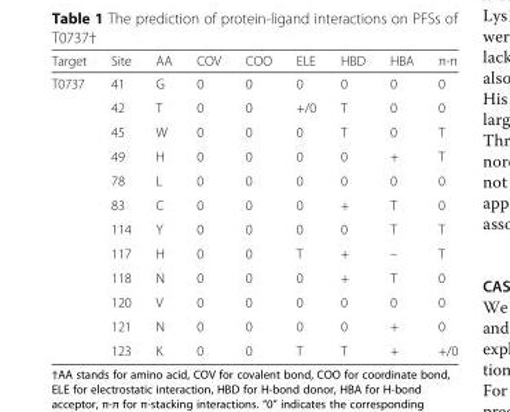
<table><thead><tr><td>Target</td><td>Site</td><td>AA</td><td>COV</td><td>COO</td><td>ELE</td><td>HBD</td><td>HBA</td><td>π-π</td></tr></thead><tbody><tr><td rowspan="12">T0737</td><td>41</td><td>G</td><td>0</td><td>0</td><td>0</td><td>0</td><td>0</td><td>0</td></tr><tr><td>42</td><td>T</td><td>0</td><td>0</td><td>+/0</td><td>T</td><td>0</td><td>0</td></tr><tr><td>45</td><td>W</td><td>0</td><td>0</td><td>0</td><td>T</td><td>0</td><td>T</td></tr><tr><td>49</td><td>H</td><td>0</td><td>0</td><td>0</td><td>0</td><td>+</td><td>T</td></tr><tr><td>78</td><td>L</td><td>0</td><td>0</td><td>0</td><td>0</td><td>0</td><td>0</td></tr><tr><td>83</td><td>C</td><td>0</td><td>0</td><td>0</td><td>+</td><td>T</td><td>0</td></tr><tr><td>114</td><td>Y</td><td>0</td><td>0</td><td>0</td><td>0</td><td>T</td><td>T</td></tr><tr><td>117</td><td>H</td><td>0</td><td>0</td><td>T</td><td>+</td><td>–</td><td>T</td></tr><tr><td>118</td><td>N</td><td>0</td><td>0</td><td>0</td><td>+</td><td>T</td><td>0</td></tr><tr><td>120</td><td>V</td><td>0</td><td>0</td><td>0</td><td>0</td><td>0</td><td>0</td></tr><tr><td>121</td><td>N</td><td>0</td><td>0</td><td>0</td><td>0</td><td>+</td><td>0</td></tr><tr><td>123</td><td>K</td><td>0</td><td>0</td><td>T</td><td>T</td><td>+</td><td>+/0</td></tr></tbody></table>